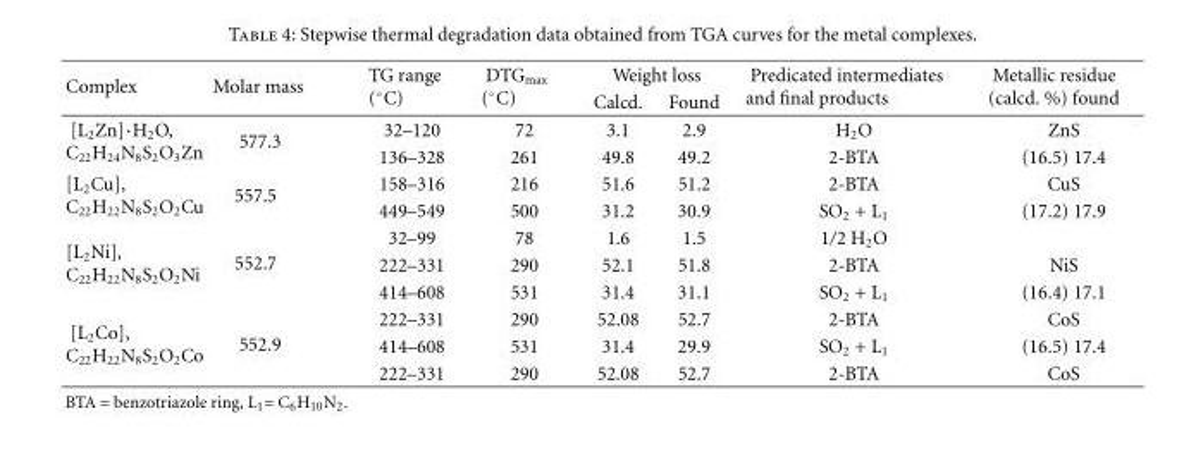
<table><thead><tr><td rowspan="2">Complex</td><td rowspan="2">Molar mass</td><td rowspan="2">TG range (◦C)</td><td rowspan="2">DTGmax (◦C)</td><td colspan="2">Weight loss</td><td rowspan="2">Predicated intermediates and final products</td><td rowspan="2">Metallic residue (calcd. %) found</td></tr><tr><td>Calcd.</td><td>Found</td></tr></thead><tbody><tr><td rowspan="2">[L2Zn]·H2O, C22H24N8S2O3Zn</td><td rowspan="2">577.3</td><td>32–120</td><td>72</td><td>3.1</td><td>2.9</td><td>H<sub>2</sub>O</td><td>ZnS</td></tr><tr><td>136–328</td><td>261</td><td>49.8</td><td>49.2</td><td>2-BTA</td><td>(16.5) 17.4</td></tr><tr><td rowspan="2">[L<sub>2</sub>Cu], C<sub>22</sub>H<sub>22</sub>N<sub>8</sub>S<sub>2</sub>O<sub>2</sub>Cu</td><td rowspan="2">557.5</td><td>158–316</td><td>216</td><td>51.6</td><td>51.2</td><td>2-BTA</td><td>CuS</td></tr><tr><td>449–549</td><td>500</td><td>31.2</td><td>30.9</td><td>SO<sub>2</sub> + L<sub>1</sub></td><td>(17.2) 17.9</td></tr><tr><td rowspan="3">[L<sub>2</sub>Ni], C<sub>22</sub>H<sub>22</sub>N<sub>8</sub>S<sub>2</sub>O<sub>2</sub>Ni</td><td rowspan="3">552.7</td><td>32–99</td><td>78</td><td>1.6</td><td>1.5</td><td>1/2 H<sub>2</sub>O</td><td></td></tr><tr><td>222–331</td><td>290</td><td>52.1</td><td>51.8</td><td>2-BTA</td><td>NiS</td></tr><tr><td>414–608</td><td>531</td><td>31.4</td><td>31.1</td><td>SO<sub>2</sub> + L<sub>1</sub></td><td>(16.4) 17.1</td></tr><tr><td rowspan="3">[L<sub>2</sub>Co], C<sub>22</sub>H<sub>22</sub>N<sub>8</sub>S<sub>2</sub>O<sub>2</sub>Co</td><td rowspan="3">552.9</td><td>222–331</td><td>290</td><td>52.08</td><td>52.7</td><td>2-BTA</td><td>CoS</td></tr><tr><td>414–608</td><td>531</td><td>31.4</td><td>29.9</td><td>SO<sub>2</sub> + L<sub>1</sub></td><td>(16.5) 17.4</td></tr><tr><td>222–331</td><td>290</td><td>52.08</td><td>52.7</td><td>2-BTA</td><td>CoS</td></tr></tbody></table>